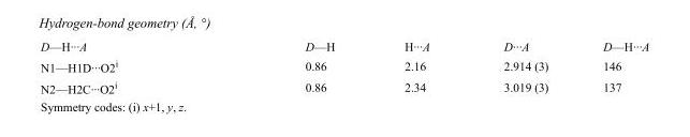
<table><tbody><tr><td>D—H···A</td><td>D—H</td><td>H···A</td><td>D···A</td><td>D—H···A</td></tr><tr><td>N1—H1D···O2<sup>i</sup></td><td>0.86</td><td>2.16</td><td>2.914 (3)</td><td>146</td></tr><tr><td>N2—H2C···O2<sup>i</sup></td><td>0.86</td><td>2.34</td><td>3.019 (3)</td><td>137</td></tr></tbody></table>